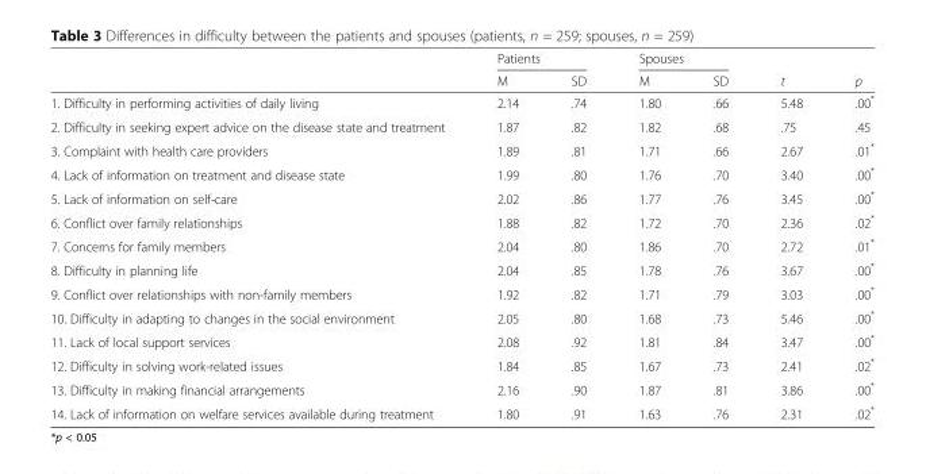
<table><thead><tr><td rowspan="2"></td><td colspan="2">Patients</td><td colspan="2">Spouses</td><td rowspan="2">t</td><td rowspan="2">p</td></tr><tr><td>M</td><td>SD</td><td>M</td><td>SD</td></tr></thead><tbody><tr><td>1. Difficulty in performing activities of daily living</td><td>2.14</td><td>.74</td><td>1.80</td><td>.66</td><td>5.48</td><td>.00*</td></tr><tr><td>2. Difficulty in seeking expert advice on the disease state and treatment</td><td>1.87</td><td>.82</td><td>1.82</td><td>.68</td><td>.75</td><td>.45</td></tr><tr><td>3. Complaint with health care providers</td><td>1.89</td><td>.81</td><td>1.71</td><td>.66</td><td>2.67</td><td>.01*</td></tr><tr><td>4. Lack of information on treatment and disease state</td><td>1.99</td><td>.80</td><td>1.76</td><td>.70</td><td>3.40</td><td>.00*</td></tr><tr><td>5. Lack of information on self-care</td><td>2.02</td><td>.86</td><td>1.77</td><td>.76</td><td>3.45</td><td>.00*</td></tr><tr><td>6. Conflict over family relationships</td><td>1.88</td><td>.82</td><td>1.72</td><td>.70</td><td>2.36</td><td>.02*</td></tr><tr><td>7. Concerns for family members</td><td>2.04</td><td>.80</td><td>1.86</td><td>.70</td><td>2.72</td><td>.01*</td></tr><tr><td>8. Difficulty in planning life</td><td>2.04</td><td>.85</td><td>1.78</td><td>.76</td><td>3.67</td><td>.00*</td></tr><tr><td>9. Conflict over relationships with non-family members</td><td>1.92</td><td>.82</td><td>1.71</td><td>.79</td><td>3.03</td><td>.00*</td></tr><tr><td>10. Difficulty in adapting to changes in the social environment</td><td>2.05</td><td>.80</td><td>1.68</td><td>.73</td><td>5.46</td><td>.00*</td></tr><tr><td>11. Lack of local support services</td><td>2.08</td><td>.92</td><td>1.81</td><td>.84</td><td>3.47</td><td>.00*</td></tr><tr><td>12. Difficulty in solving work-related issues</td><td>1.84</td><td>.85</td><td>1.67</td><td>.73</td><td>2.41</td><td>.02*</td></tr><tr><td>13. Difficulty in making financial arrangements</td><td>2.16</td><td>.90</td><td>1.87</td><td>.81</td><td>3.86</td><td>.00*</td></tr><tr><td>14. Lack of information on welfare services available during treatment</td><td>1.80</td><td>.91</td><td>1.63</td><td>.76</td><td>2.31</td><td>.02*</td></tr></tbody></table>